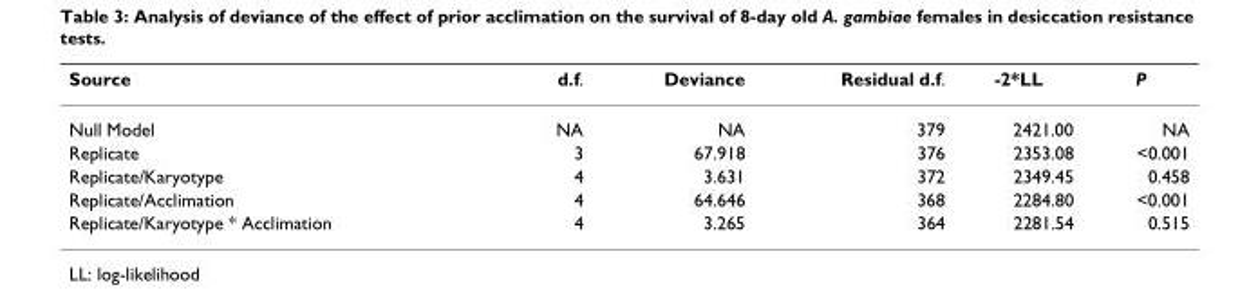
<table><thead><tr><td>Source</td><td>d.f.</td><td>Deviance</td><td>Residual d.f.</td><td>-2*LL</td><td>P</td></tr></thead><tbody><tr><td>Null Model</td><td>NA</td><td>NA</td><td>379</td><td>2421.00</td><td>NA</td></tr><tr><td>Replicate</td><td>3</td><td>67.918</td><td>376</td><td>2353.08</td><td>&lt;0.001</td></tr><tr><td>Replicate/Karyotype</td><td>4</td><td>3.631</td><td>372</td><td>2349.45</td><td>0.458</td></tr><tr><td>Replicate/Acclimation</td><td>4</td><td>64.646</td><td>368</td><td>2284.80</td><td>&lt;0.001</td></tr><tr><td>Replicate/Karyotype * Acclimation</td><td>4</td><td>3.265</td><td>364</td><td>2281.54</td><td>0.515</td></tr></tbody></table>